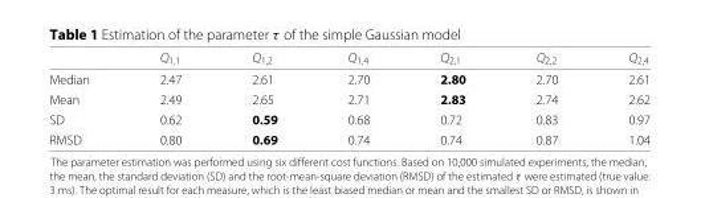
<table><thead><tr><td></td><td>Q<sub>1,1</sub></td><td>Q<sub>1,2</sub></td><td>Q<sub>1,4</sub></td><td>Q<sub>2,1</sub></td><td>Q<sub>2,2</sub></td><td>Q<sub>2,4</sub></td></tr></thead><tbody><tr><td>Median</td><td>2.47</td><td>2.61</td><td>2.70</td><td>2.80</td><td>2.70</td><td>2.61</td></tr><tr><td>Mean</td><td>2.49</td><td>2.65</td><td>2.71</td><td>2.83</td><td>2.74</td><td>2.62</td></tr><tr><td>SD</td><td>0.62</td><td>0.59</td><td>0.68</td><td>0.72</td><td>0.83</td><td>0.97</td></tr><tr><td>RMSD</td><td>0.80</td><td>0.69</td><td>0.74</td><td>0.74</td><td>0.87</td><td>1.04</td></tr></tbody></table>